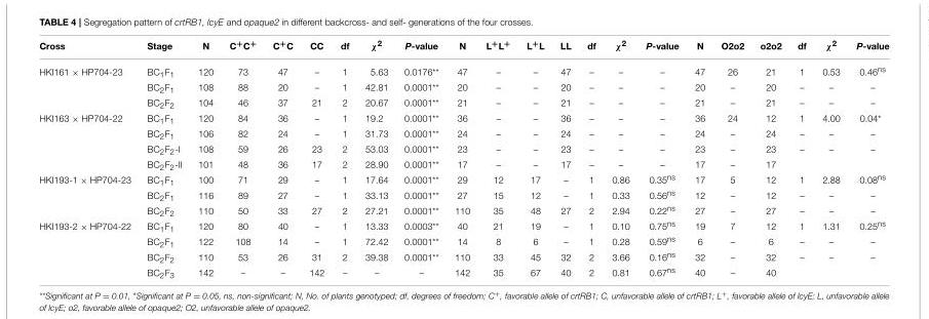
<table><thead><tr><td>Cross</td><td>Stage</td><td>N</td><td>C<sup>+</sup>C<sup>+</sup></td><td>C<sup>+</sup>C</td><td>CC</td><td>df</td><td>χ<sup>2</sup></td><td>P-value</td><td>N</td><td>L<sup>+</sup>L<sup>+</sup></td><td>L<sup>+</sup>L</td><td>LL</td><td>df</td><td>χ<sup>2</sup></td><td>P-value</td><td>N</td><td>O2o2</td><td>o2o2</td><td>df</td><td>χ<sup>2</sup></td><td>P-value</td></tr></thead><tbody><tr><td rowspan="3">HKI161 × HP704-23</td><td>BC<sub>1</sub>F<sub>1</sub></td><td>120</td><td>73</td><td>47</td><td>–</td><td>1</td><td>5.63</td><td>0.0176**</td><td>47</td><td>–</td><td>–</td><td>47</td><td>–</td><td>–</td><td>–</td><td>47</td><td>26</td><td>21</td><td>1</td><td>0.53</td><td>0.46<sup>ns</sup></td></tr><tr><td>BC<sub>2</sub>F<sub>1</sub></td><td>108</td><td>88</td><td>20</td><td>–</td><td>1</td><td>42.81</td><td>0.0001**</td><td>20</td><td>–</td><td>–</td><td>20</td><td>–</td><td>–</td><td>–</td><td>20</td><td>–</td><td>20</td><td>–</td><td>–</td><td>–</td></tr><tr><td>BC<sub>2</sub>F<sub>2</sub></td><td>104</td><td>46</td><td>37</td><td>21</td><td>2</td><td>20.67</td><td>0.0001**</td><td>21</td><td>–</td><td>–</td><td>21</td><td>–</td><td>–</td><td>–</td><td>21</td><td>–</td><td>21</td><td>–</td><td>–</td><td>–</td></tr><tr><td rowspan="4">HKI163 × HP704-22</td><td>BC<sub>1</sub>F<sub>1</sub></td><td>120</td><td>84</td><td>36</td><td>–</td><td>1</td><td>19.2</td><td>0.0001**</td><td>36</td><td>–</td><td>–</td><td>36</td><td>–</td><td>–</td><td>–</td><td>36</td><td>24</td><td>12</td><td>1</td><td>4.00</td><td>0.04*</td></tr><tr><td>BC<sub>2</sub>F<sub>1</sub></td><td>106</td><td>82</td><td>24</td><td>–</td><td>1</td><td>31.73</td><td>0.0001**</td><td>24</td><td>–</td><td>–</td><td>24</td><td>–</td><td>–</td><td>–</td><td>24</td><td>–</td><td>24</td><td>–</td><td>–</td><td>–</td></tr><tr><td>BC<sub>2</sub>F<sub>2</sub>-I</td><td>108</td><td>59</td><td>26</td><td>23</td><td>2</td><td>53.03</td><td>0.0001**</td><td>23</td><td>–</td><td>–</td><td>23</td><td>–</td><td>–</td><td>–</td><td>23</td><td>–</td><td>23</td><td>–</td><td>–</td><td>–</td></tr><tr><td>BC<sub>2</sub>F<sub>2</sub>-II</td><td>101</td><td>48</td><td>36</td><td>17</td><td>2</td><td>28.90</td><td>0.0001**</td><td>17</td><td>–</td><td>–</td><td>17</td><td>–</td><td>–</td><td>–</td><td>17</td><td>–</td><td>17</td><td></td><td></td><td></td></tr><tr><td rowspan="3">HKI193-1 × HP704-23</td><td>BC<sub>1</sub>F<sub>1</sub></td><td>100</td><td>71</td><td>29</td><td>–</td><td>1</td><td>17.64</td><td>0.0001**</td><td>29</td><td>12</td><td>17</td><td>–</td><td>1</td><td>0.86</td><td>0.35<sup>ns</sup></td><td>17</td><td>5</td><td>12</td><td>1</td><td>2.88</td><td>0.08<sup>ns</sup></td></tr><tr><td>BC<sub>2</sub>F<sub>1</sub></td><td>116</td><td>89</td><td>27</td><td>–</td><td>1</td><td>33.13</td><td>0.0001**</td><td>27</td><td>15</td><td>12</td><td>–</td><td>1</td><td>0.33</td><td>0.56<sup>ns</sup></td><td>12</td><td>–</td><td>12</td><td>–</td><td>–</td><td>–</td></tr><tr><td>BC<sub>2</sub>F<sub>2</sub></td><td>110</td><td>50</td><td>33</td><td>27</td><td>2</td><td>27.21</td><td>0.0001**</td><td>110</td><td>35</td><td>48</td><td>27</td><td>2</td><td>2.94</td><td>0.22<sup>ns</sup></td><td>27</td><td>–</td><td>27</td><td>–</td><td>–</td><td>–</td></tr><tr><td rowspan="4">HKI193-2 × HP704-22</td><td>BC<sub>1</sub>F<sub>1</sub></td><td>120</td><td>80</td><td>40</td><td>–</td><td>1</td><td>13.33</td><td>0.0003**</td><td>40</td><td>21</td><td>19</td><td>–</td><td>1</td><td>0.10</td><td>0.75<sup>ns</sup></td><td>19</td><td>7</td><td>12</td><td>1</td><td>1.31</td><td>0.25<sup>ns</sup></td></tr><tr><td>BC<sub>2</sub>F<sub>1</sub></td><td>122</td><td>108</td><td>14</td><td>–</td><td>1</td><td>72.42</td><td>0.0001**</td><td>14</td><td>8</td><td>6</td><td>–</td><td>1</td><td>0.28</td><td>0.59<sup>ns</sup></td><td>6</td><td>–</td><td>6</td><td>–</td><td>–</td><td>–</td></tr><tr><td>BC<sub>2</sub>F<sub>2</sub></td><td>110</td><td>53</td><td>26</td><td>31</td><td>2</td><td>39.38</td><td>0.0001**</td><td>110</td><td>33</td><td>45</td><td>32</td><td>2</td><td>3.66</td><td>0.16<sup>ns</sup></td><td>32</td><td>–</td><td>32</td><td>–</td><td>–</td><td>–</td></tr><tr><td>BC<sub>2</sub>F<sub>3</sub></td><td>142</td><td>–</td><td>–</td><td>142</td><td>–</td><td>–</td><td>–</td><td>142</td><td>35</td><td>67</td><td>40</td><td>2</td><td>0.81</td><td>0.67<sup>ns</sup></td><td>40</td><td>–</td><td>40</td><td></td><td></td><td></td></tr></tbody></table>